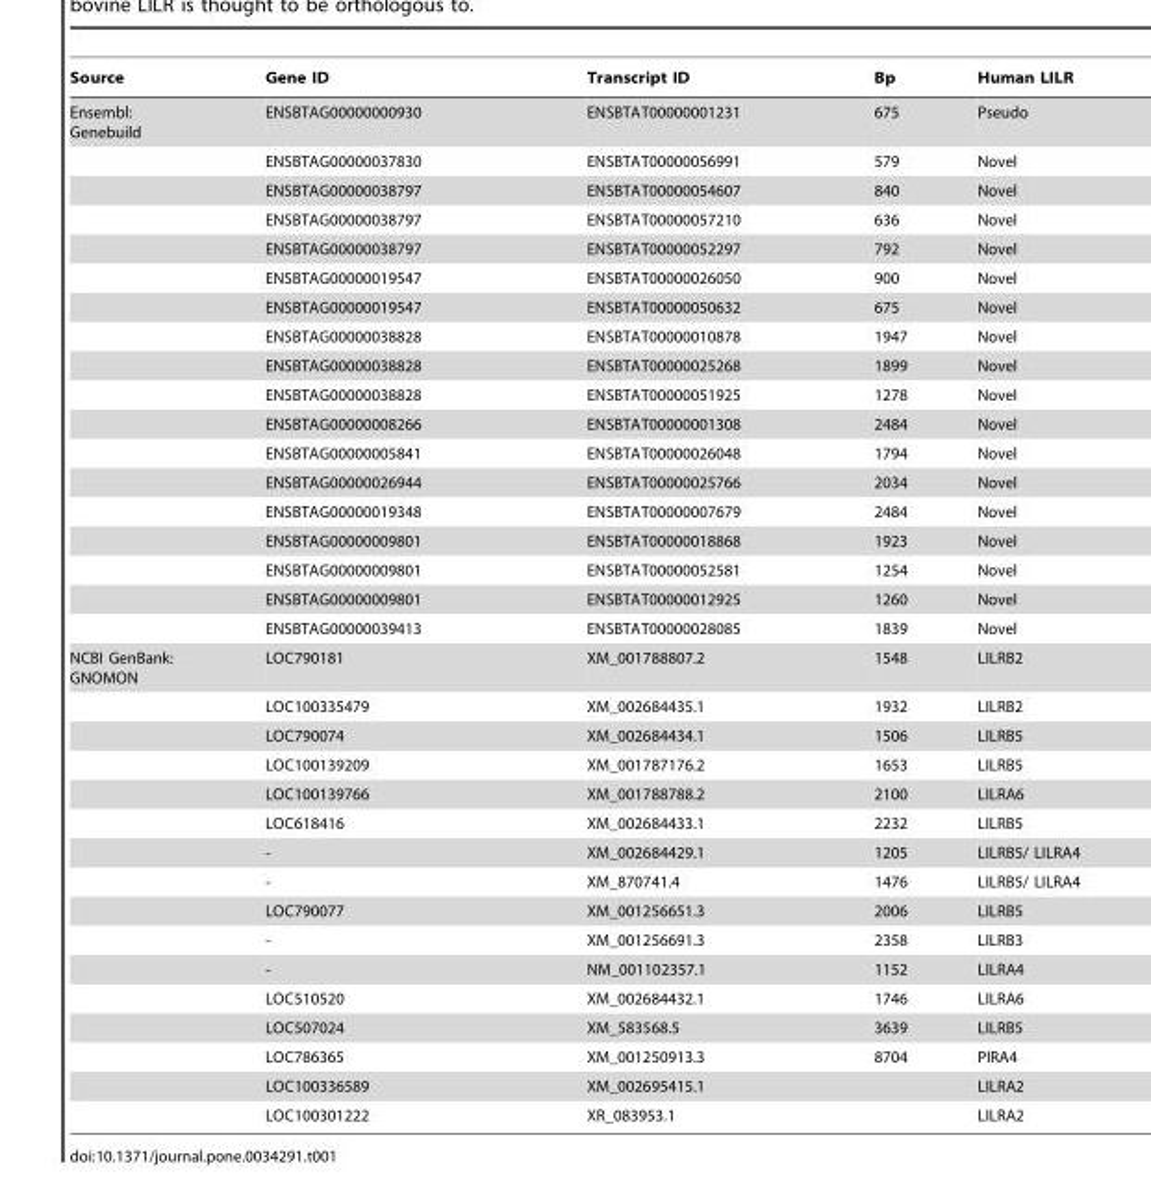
<table><thead><tr><td>Source</td><td>Gene ID</td><td>Transcript ID</td><td>Bp</td><td>Human LILR</td></tr></thead><tbody><tr><td rowspan="18">Ensembl: Genebuild</td><td>ENSBTAG00000000930</td><td>ENSBTAT00000001231</td><td>675</td><td>Pseudo</td></tr><tr><td>ENSBTAG00000037830</td><td>ENSBTAT00000056991</td><td>579</td><td>Novel</td></tr><tr><td>ENSBTAG00000038797</td><td>ENSBTAT00000054607</td><td>840</td><td>Novel</td></tr><tr><td>ENSBTAG00000038797</td><td>ENSBTAT00000057210</td><td>636</td><td>Novel</td></tr><tr><td>ENSBTAG00000038797</td><td>ENSBTAT00000052297</td><td>792</td><td>Novel</td></tr><tr><td>ENSBTAG00000019547</td><td>ENSBTAT00000026050</td><td>900</td><td>Novel</td></tr><tr><td>ENSBTAG00000019547</td><td>ENSBTAT00000050632</td><td>675</td><td>Novel</td></tr><tr><td>ENSBTAG00000038828</td><td>ENSBTAT00000010878</td><td>1947</td><td>Novel</td></tr><tr><td>ENSBTAG00000038828</td><td>ENSBTAT00000025268</td><td>1899</td><td>Novel</td></tr><tr><td>ENSBTAG00000038828</td><td>ENSBTAT00000051925</td><td>1278</td><td>Novel</td></tr><tr><td>ENSBTAG00000008266</td><td>ENSBTAT00000001308</td><td>2484</td><td>Novel</td></tr><tr><td>ENSBTAG00000005841</td><td>ENSBTAT00000026048</td><td>1794</td><td>Novel</td></tr><tr><td>ENSBTAG00000026944</td><td>ENSBTAT00000025766</td><td>2034</td><td>Novel</td></tr><tr><td>ENSBTAG00000019348</td><td>ENSBTAT00000007679</td><td>2484</td><td>Novel</td></tr><tr><td>ENSBTAG00000009801</td><td>ENSBTAT00000018868</td><td>1923</td><td>Novel</td></tr><tr><td>ENSBTAG00000009801</td><td>ENSBTAT00000052581</td><td>1254</td><td>Novel</td></tr><tr><td>ENSBTAG00000009801</td><td>ENSBTAT00000012925</td><td>1260</td><td>Novel</td></tr><tr><td>ENSBTAG00000039413</td><td>ENSBTAT00000028085</td><td>1839</td><td>Novel</td></tr><tr><td rowspan="16">NCBI GenBank: GNOMON</td><td>LOC790181</td><td>XM_001788807.2</td><td>1548</td><td>LILRB2</td></tr><tr><td>LOC100335479</td><td>XM_002684435.1</td><td>1932</td><td>LILRB2</td></tr><tr><td>LOC790074</td><td>XM_002684434.1</td><td>1506</td><td>LILRB5</td></tr><tr><td>LOC100139209</td><td>XM_001787176.2</td><td>1653</td><td>LILRB5</td></tr><tr><td>LOC100139766</td><td>XM_001788788.2</td><td>2100</td><td>LILRA6</td></tr><tr><td>LOC618416</td><td>XM_002684433.1</td><td>2232</td><td>LILRB5</td></tr><tr><td>-</td><td>XM_002684429.1</td><td>1205</td><td>LILRB5/ LILRA4</td></tr><tr><td>-</td><td>XM_870741.4</td><td>1476</td><td>LILRB5/ LILRA4</td></tr><tr><td>LOC790077</td><td>XM_001256651.3</td><td>2006</td><td>LILRB5</td></tr><tr><td>-</td><td>XM_001256691.3</td><td>2358</td><td>LILRB3</td></tr><tr><td>-</td><td>NM_001102357.1</td><td>1152</td><td>LILRA4</td></tr><tr><td>LOC510520</td><td>XM_002684432.1</td><td>1746</td><td>LILRA6</td></tr><tr><td>LOC507024</td><td>XM_583568.5</td><td>3639</td><td>LILRB5</td></tr><tr><td>LOC786365</td><td>XM_001250913.3</td><td>8704</td><td>PIRA4</td></tr><tr><td>LOC100336589</td><td>XM_002695415.1</td><td></td><td>LILRA2</td></tr><tr><td>LOC100301222</td><td>XR_083953.1</td><td></td><td>LILRA2</td></tr></tbody></table>